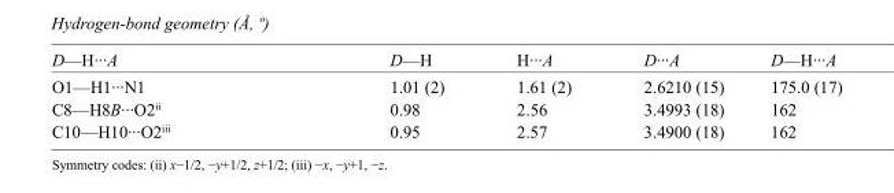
<table><tbody><tr><td>D—H···A</td><td>D—H</td><td>H···A</td><td>D···A</td><td>D—H···A</td></tr><tr><td>O1—H1···N1</td><td>1.01 (2)</td><td>1.61 (2)</td><td>2.6210 (15)</td><td>175.0 (17)</td></tr><tr><td>C8—H8B···O2<sup>ii</sup></td><td>0.98</td><td>2.56</td><td>3.4993 (18)</td><td>162</td></tr><tr><td>C10—H10···O2<sup>iii</sup></td><td>0.95</td><td>2.57</td><td>3.4900 (18)</td><td>162</td></tr></tbody></table>